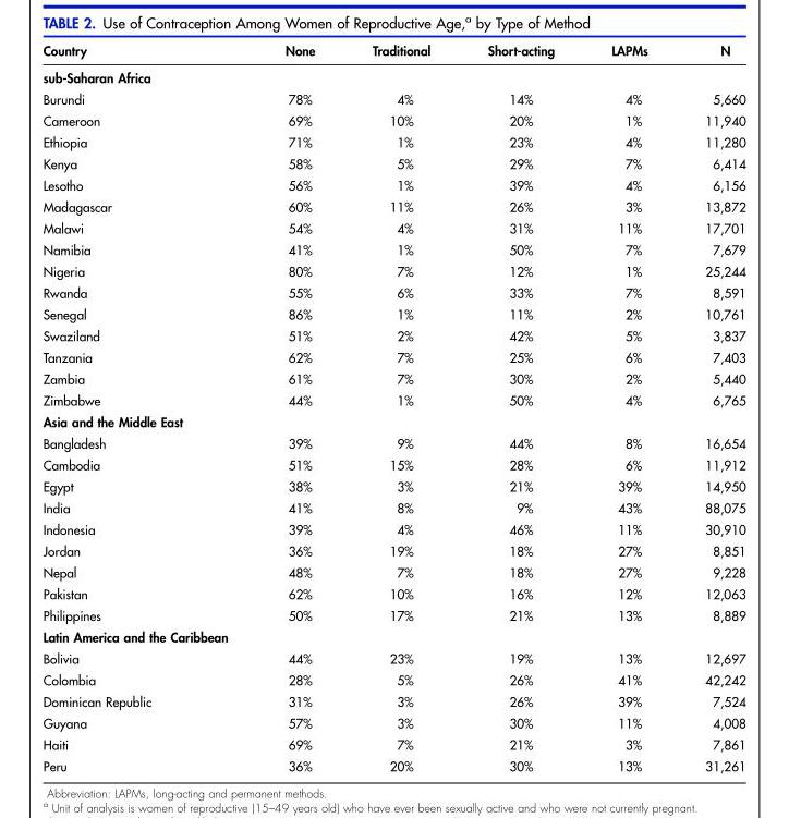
<table><thead><tr><td>Country</td><td>None</td><td>Traditional</td><td>Short-acting</td><td>LAPMs</td><td>N</td></tr></thead><tbody><tr><td colspan="6">sub-Saharan Africa</td></tr><tr><td>Burundi</td><td>78%</td><td>4%</td><td>14%</td><td>4%</td><td>5,660</td></tr><tr><td>Cameroon</td><td>69%</td><td>10%</td><td>20%</td><td>1%</td><td>11,940</td></tr><tr><td>Ethiopia</td><td>71%</td><td>1%</td><td>23%</td><td>4%</td><td>11,280</td></tr><tr><td>Kenya</td><td>58%</td><td>5%</td><td>29%</td><td>7%</td><td>6,414</td></tr><tr><td>Lesotho</td><td>56%</td><td>1%</td><td>39%</td><td>4%</td><td>6,156</td></tr><tr><td>Madagascar</td><td>60%</td><td>11%</td><td>26%</td><td>3%</td><td>13,872</td></tr><tr><td>Malawi</td><td>54%</td><td>4%</td><td>31%</td><td>11%</td><td>17,701</td></tr><tr><td>Namibia</td><td>41%</td><td>1%</td><td>50%</td><td>7%</td><td>7,679</td></tr><tr><td>Nigeria</td><td>80%</td><td>7%</td><td>12%</td><td>1%</td><td>25,244</td></tr><tr><td>Rwanda</td><td>55%</td><td>6%</td><td>33%</td><td>7%</td><td>8,591</td></tr><tr><td>Senegal</td><td>86%</td><td>1%</td><td>11%</td><td>2%</td><td>10,761</td></tr><tr><td>Swaziland</td><td>51%</td><td>2%</td><td>42%</td><td>5%</td><td>3,837</td></tr><tr><td>Tanzania</td><td>62%</td><td>7%</td><td>25%</td><td>6%</td><td>7,403</td></tr><tr><td>Zambia</td><td>61%</td><td>7%</td><td>30%</td><td>2%</td><td>5,440</td></tr><tr><td>Zimbabwe</td><td>44%</td><td>1%</td><td>50%</td><td>4%</td><td>6,765</td></tr><tr><td colspan="6">Asia and the Middle East</td></tr><tr><td>Bangladesh</td><td>39%</td><td>9%</td><td>44%</td><td>8%</td><td>16,654</td></tr><tr><td>Cambodia</td><td>51%</td><td>15%</td><td>28%</td><td>6%</td><td>11,912</td></tr><tr><td>Egypt</td><td>38%</td><td>3%</td><td>21%</td><td>39%</td><td>14,950</td></tr><tr><td>India</td><td>41%</td><td>8%</td><td>9%</td><td>43%</td><td>88,075</td></tr><tr><td>Indonesia</td><td>39%</td><td>4%</td><td>46%</td><td>11%</td><td>30,910</td></tr><tr><td>Jordan</td><td>36%</td><td>19%</td><td>18%</td><td>27%</td><td>8,851</td></tr><tr><td>Nepal</td><td>48%</td><td>7%</td><td>18%</td><td>27%</td><td>9,228</td></tr><tr><td>Pakistan</td><td>62%</td><td>10%</td><td>16%</td><td>12%</td><td>12,063</td></tr><tr><td>Philippines</td><td>50%</td><td>17%</td><td>21%</td><td>13%</td><td>8,889</td></tr><tr><td colspan="6">Latin America and the Caribbean</td></tr><tr><td>Bolivia</td><td>44%</td><td>23%</td><td>19%</td><td>13%</td><td>12,697</td></tr><tr><td>Colombia</td><td>28%</td><td>5%</td><td>26%</td><td>41%</td><td>42,242</td></tr><tr><td>Dominican Republic</td><td>31%</td><td>3%</td><td>26%</td><td>39%</td><td>7,524</td></tr><tr><td>Guyana</td><td>57%</td><td>3%</td><td>30%</td><td>11%</td><td>4,008</td></tr><tr><td>Haiti</td><td>69%</td><td>7%</td><td>21%</td><td>3%</td><td>7,861</td></tr><tr><td>Peru</td><td>36%</td><td>20%</td><td>30%</td><td>13%</td><td>31,261</td></tr></tbody></table>